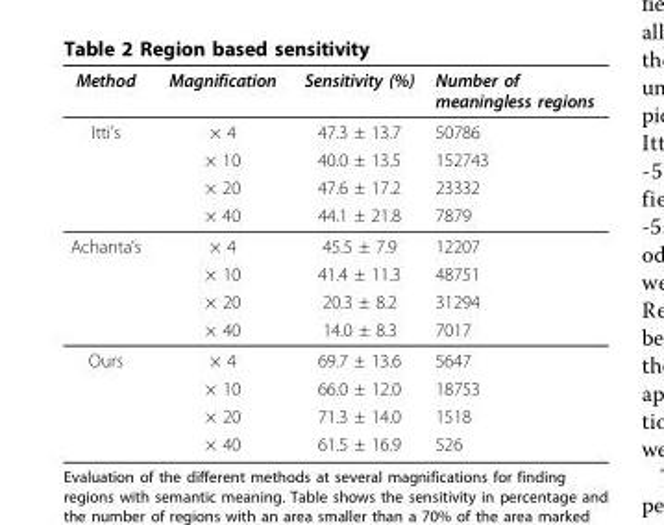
<table><thead><tr><td>Method</td><td>Magnification</td><td>Sensitivity (%)</td><td>Number of meaningless regions</td></tr></thead><tbody><tr><td rowspan="4">Itti’s</td><td>× 4</td><td>47.3 ± 13.7</td><td>50786</td></tr><tr><td>× 10</td><td>40.0 ± 13.5</td><td>152743</td></tr><tr><td>× 20</td><td>47.6 ± 17.2</td><td>23332</td></tr><tr><td>× 40</td><td>44.1 ± 21.8</td><td>7879</td></tr><tr><td rowspan="4">Achanta’s</td><td>× 4</td><td>45.5 ± 7.9</td><td>12207</td></tr><tr><td>× 10</td><td>41.4 ± 11.3</td><td>48751</td></tr><tr><td>× 20</td><td>20.3 ± 8.2</td><td>31294</td></tr><tr><td>× 40</td><td>14.0 ± 8.3</td><td>7017</td></tr><tr><td rowspan="4">Ours</td><td>× 4</td><td>69.7 ± 13.6</td><td>5647</td></tr><tr><td>× 10</td><td>66.0 ± 12.0</td><td>18753</td></tr><tr><td>× 20</td><td>71.3 ± 14.0</td><td>1518</td></tr><tr><td>× 40</td><td>61.5 ± 16.9</td><td>526</td></tr></tbody></table>